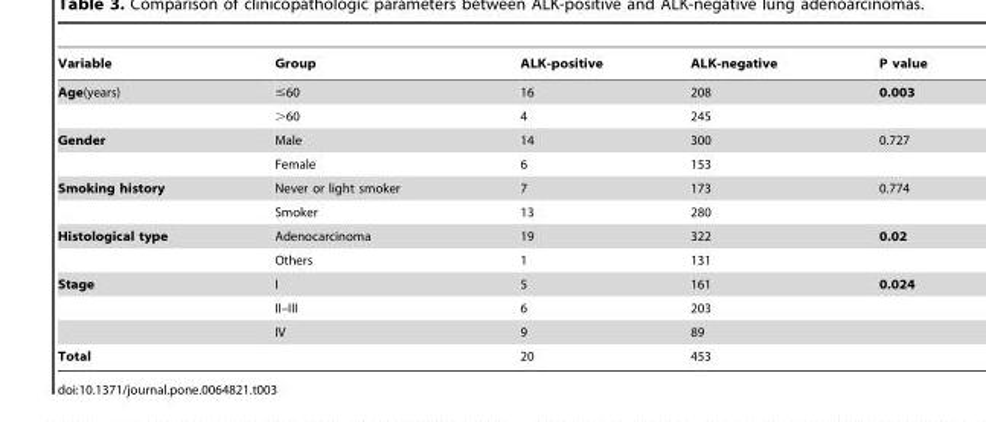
<table><thead><tr><td>Variable</td><td>Group</td><td>ALK-positive</td><td>ALK-negative</td><td>P value</td></tr></thead><tbody><tr><td rowspan="2">Age(years)</td><td>≤60</td><td>16</td><td>208</td><td>0.003</td></tr><tr><td>&gt;60</td><td>4</td><td>245</td><td></td></tr><tr><td rowspan="2">Gender</td><td>Male</td><td>14</td><td>300</td><td>0.727</td></tr><tr><td>Female</td><td>6</td><td>153</td><td></td></tr><tr><td rowspan="2">Smoking history</td><td>Never or light smoker</td><td>7</td><td>173</td><td>0.774</td></tr><tr><td>Smoker</td><td>13</td><td>280</td><td></td></tr><tr><td rowspan="2">Histological type</td><td>Adenocarcinoma</td><td>19</td><td>322</td><td>0.02</td></tr><tr><td>Others</td><td>1</td><td>131</td><td></td></tr><tr><td rowspan="3">Stage</td><td>I</td><td>5</td><td>161</td><td>0.024</td></tr><tr><td>II–III</td><td>6</td><td>203</td><td></td></tr><tr><td>IV</td><td>9</td><td>89</td><td></td></tr><tr><td>Total</td><td></td><td>20</td><td>453</td><td></td></tr></tbody></table>